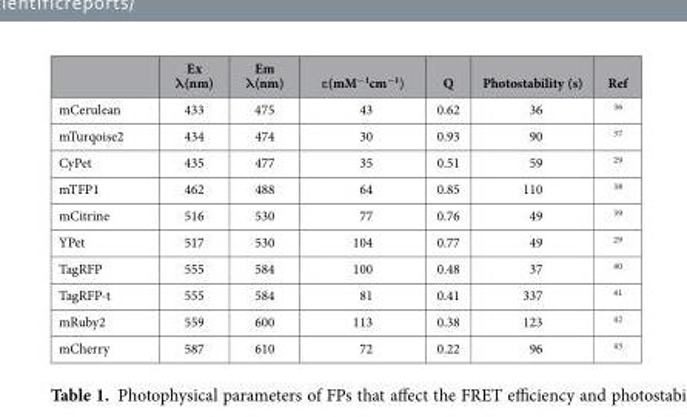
<table><thead><tr><td></td><td>Ex λ(nm)</td><td>Em λ(nm)</td><td>ε(mM<sup>−1</sup>cm<sup>−1</sup>)</td><td>Q</td><td>Photostability (s)</td><td>Ref</td></tr></thead><tbody><tr><td>mCerulean</td><td>433</td><td>475</td><td>43</td><td>0.62</td><td>36</td><td>36</td></tr><tr><td>mTurqoise2</td><td>434</td><td>474</td><td>30</td><td>0.93</td><td>90</td><td>37</td></tr><tr><td>CyPet</td><td>435</td><td>477</td><td>35</td><td>0.51</td><td>59</td><td>29</td></tr><tr><td>mTFP1</td><td>462</td><td>488</td><td>64</td><td>0.85</td><td>110</td><td>38</td></tr><tr><td>mCitrine</td><td>516</td><td>530</td><td>77</td><td>0.76</td><td>49</td><td>39</td></tr><tr><td>YPet</td><td>517</td><td>530</td><td>104</td><td>0.77</td><td>49</td><td>29</td></tr><tr><td>TagRFP</td><td>555</td><td>584</td><td>100</td><td>0.48</td><td>37</td><td>40</td></tr><tr><td>TagRFP-t</td><td>555</td><td>584</td><td>81</td><td>0.41</td><td>337</td><td>41</td></tr><tr><td>mRuby2</td><td>559</td><td>600</td><td>113</td><td>0.38</td><td>123</td><td>42</td></tr><tr><td>mCherry</td><td>587</td><td>610</td><td>72</td><td>0.22</td><td>96</td><td>43</td></tr></tbody></table>